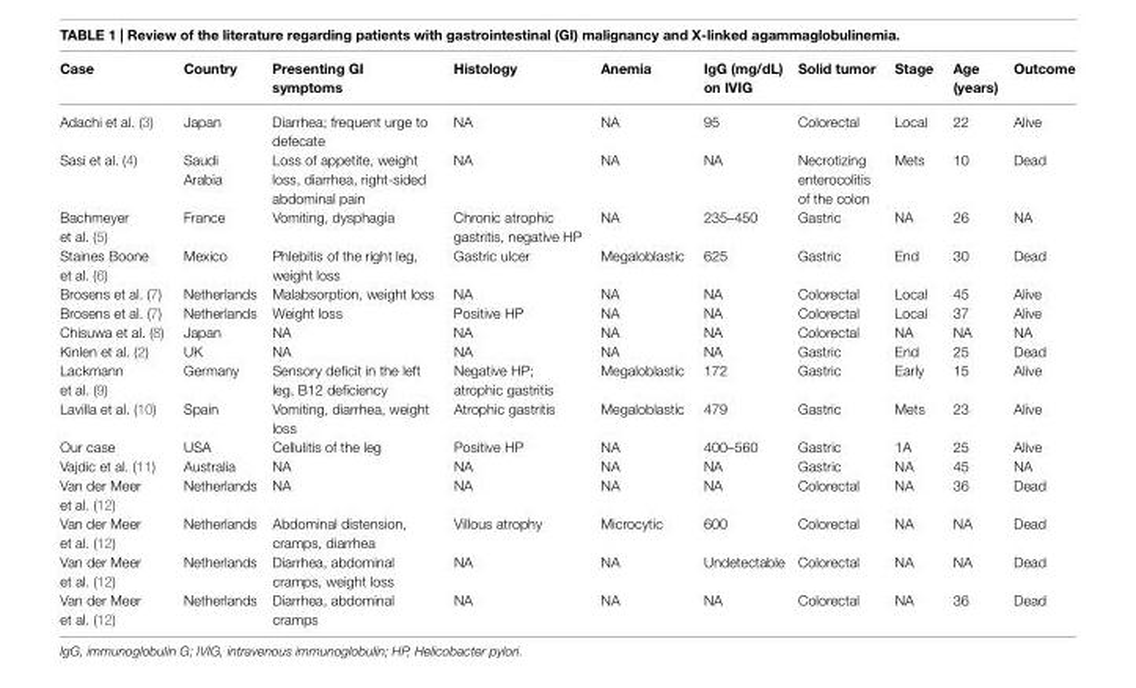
<table><thead><tr><td>Case</td><td>Country</td><td>presenting GI symptoms</td><td>Histology</td><td>anemia</td><td>IgG (mg/dL) on IVIG</td><td>solid tumor</td><td>stage</td><td>age (years)</td><td>outcome</td></tr></thead><tbody><tr><td>Adachi et al. (3)</td><td>Japan</td><td>Diarrhea; frequent urge to defecate</td><td>NA</td><td>NA</td><td>95</td><td>Colorectal</td><td>Local</td><td>22</td><td>Alive</td></tr><tr><td>Sasi et al. (4)</td><td>Saudi Arabia</td><td>Loss of appetite, weight loss, diarrhea, right-sided abdominal pain</td><td>NA</td><td>NA</td><td>NA</td><td>Necrotizing enterocolitis of the colon</td><td>Mets</td><td>10</td><td>Dead</td></tr><tr><td>Bachmeyer et al. (5)</td><td>France</td><td>Vomiting, dysphagia</td><td>Chronic atrophic gastritis, negative HP</td><td>NA</td><td>235–450</td><td>Gastric</td><td>NA</td><td>26</td><td>NA</td></tr><tr><td>Staines Boone et al. (6)</td><td>Mexico</td><td>Phlebitis of the right leg, weight loss</td><td>Gastric ulcer</td><td>Megaloblastic</td><td>625</td><td>Gastric</td><td>End</td><td>30</td><td>Dead</td></tr><tr><td>Brosens et al. (7)</td><td>Netherlands</td><td>Malabsorption, weight loss</td><td>NA</td><td>NA</td><td>NA</td><td>Colorectal</td><td>Local</td><td>45</td><td>Alive</td></tr><tr><td>Brosens et al. (7)</td><td>Netherlands</td><td>Weight loss</td><td>Positive HP</td><td>NA</td><td>NA</td><td>Colorectal</td><td>Local</td><td>37</td><td>Alive</td></tr><tr><td>Chisuwa et al. (8)</td><td>Japan</td><td>NA</td><td>NA</td><td>NA</td><td>NA</td><td>Colorectal</td><td>NA</td><td>NA</td><td>NA</td></tr><tr><td>Kinlen et al. (2)</td><td>UK</td><td>NA</td><td>NA</td><td>NA</td><td>NA</td><td>Gastric</td><td>End</td><td>25</td><td>Dead</td></tr><tr><td>Lackmann et al. (9)</td><td>Germany</td><td>Sensory deficit in the left leg, B12 deficiency</td><td>Negative HP; atrophic gastritis</td><td>Megaloblastic</td><td>172</td><td>Gastric</td><td>Early</td><td>15</td><td>Alive</td></tr><tr><td>Lavilla et al. (10)</td><td>Spain</td><td>Vomiting, diarrhea, weight loss</td><td>Atrophic gastritis</td><td>Megaloblastic</td><td>479</td><td>Gastric</td><td>Mets</td><td>23</td><td>Alive</td></tr><tr><td>Our case</td><td>USA</td><td>Cellulitis of the leg</td><td>Positive HP</td><td>NA</td><td>400–560</td><td>Gastric</td><td>1A</td><td>25</td><td>Alive</td></tr><tr><td>Vajdic et al. (11)</td><td>Australia</td><td>NA</td><td>NA</td><td>NA</td><td>NA</td><td>Gastric</td><td>NA</td><td>45</td><td>NA</td></tr><tr><td>Van der Meer et al. (12)</td><td>Netherlands</td><td>NA</td><td>NA</td><td>NA</td><td>NA</td><td>Colorectal</td><td>NA</td><td>36</td><td>Dead</td></tr><tr><td>Van der Meer et al. (12)</td><td>Netherlands</td><td>Abdominal distension, cramps, diarrhea</td><td>Villous atrophy</td><td>Microcytic</td><td>600</td><td>Colorectal</td><td>NA</td><td>NA</td><td>Dead</td></tr><tr><td>Van der Meer et al. (12)</td><td>Netherlands</td><td>Diarrhea, abdominal cramps, weight loss</td><td>NA</td><td>NA</td><td>Undetectable</td><td>Colorectal</td><td>NA</td><td>NA</td><td>Dead</td></tr><tr><td>Van der Meer et al. (12)</td><td>Netherlands</td><td>Diarrhea, abdominal cramps</td><td>NA</td><td>NA</td><td>NA</td><td>Colorectal</td><td>NA</td><td>36</td><td>Dead</td></tr></tbody></table>